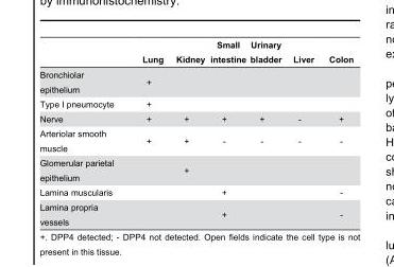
<table><thead><tr><td></td><td>Lung</td><td>Kidney</td><td>Small intestine</td><td>Urinary bladder</td><td>Liver</td><td>Colon</td></tr></thead><tbody><tr><td>Bronchiolar epithelium</td><td>+</td><td></td><td></td><td></td><td></td><td></td></tr><tr><td>Type I pneumocyte</td><td>+</td><td></td><td></td><td></td><td></td><td></td></tr><tr><td>Nerve</td><td>+</td><td>+</td><td>+</td><td>+</td><td>-</td><td>+</td></tr><tr><td>Arteriolar smooth muscle</td><td>+</td><td>+</td><td>-</td><td>-</td><td>-</td><td>-</td></tr><tr><td>Glomerular parietal epithelium</td><td></td><td>+</td><td></td><td></td><td></td><td></td></tr><tr><td>Lamina muscularis</td><td></td><td></td><td>+</td><td></td><td></td><td>-</td></tr><tr><td>Lamina propria vessels</td><td></td><td></td><td>+</td><td></td><td></td><td>-</td></tr></tbody></table>